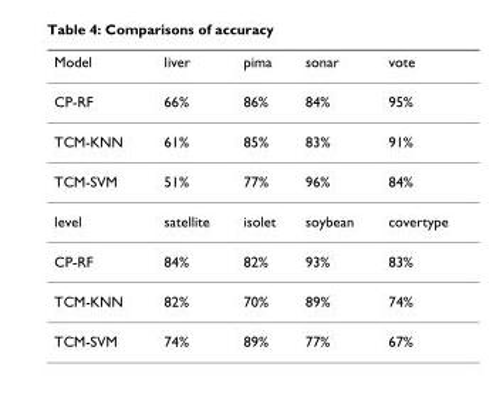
<table><thead><tr><td>Model</td><td>liver</td><td>pima</td><td>sonar</td><td>vote</td></tr></thead><tbody><tr><td>CP-RF</td><td>66%</td><td>86%</td><td>84%</td><td>95%</td></tr><tr><td>TCM-KNN</td><td>61%</td><td>85%</td><td>83%</td><td>91%</td></tr><tr><td>TCM-SVM</td><td>51%</td><td>77%</td><td>96%</td><td>84%</td></tr><tr><td>level</td><td>satellite</td><td>isolet</td><td>soybean</td><td>covertype</td></tr><tr><td>CP-RF</td><td>84%</td><td>82%</td><td>93%</td><td>83%</td></tr><tr><td>TCM-KNN</td><td>82%</td><td>70%</td><td>89%</td><td>74%</td></tr><tr><td>TCM-SVM</td><td>74%</td><td>89%</td><td>77%</td><td>67%</td></tr></tbody></table>